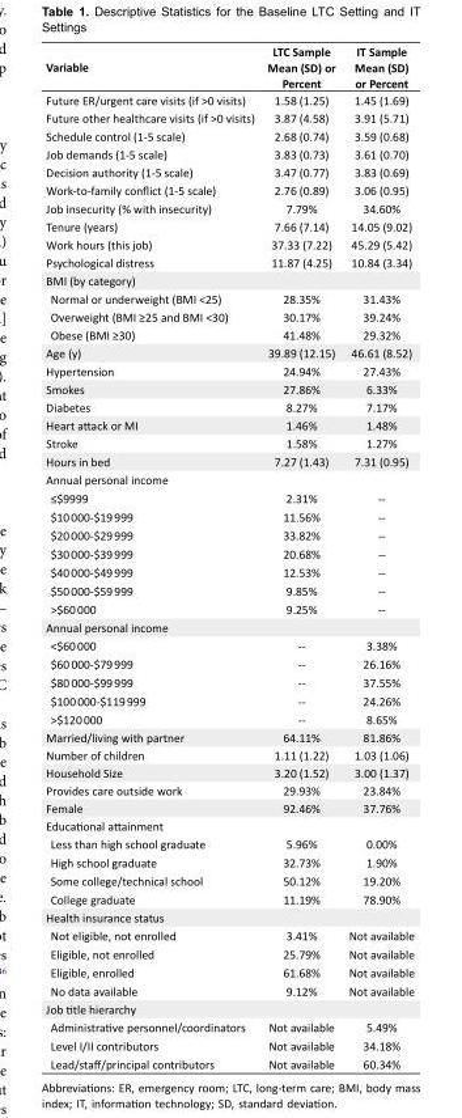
<table><tbody><tr><td rowspan="2">Variable</td><td>LTC Sample</td><td>IT Sample</td></tr><tr><td>Mean (SD) or Percent</td><td>Mean (SD) or Percent</td></tr><tr><td>Future ER/urgent care visits (if &gt;0 visits)</td><td>1.58 (1.25)</td><td>1.45 (1.69)</td></tr><tr><td>Future other healthcare visits (if &gt;0 visits)</td><td>3.87 (4.58)</td><td>3.91 (5.71)</td></tr><tr><td>Schedule control (1-5 scale)</td><td>2.68 (0.74)</td><td>3.59 (0.68)</td></tr><tr><td>Job demands (1-5 scale)</td><td>3.83 (0.73)</td><td>3.61 (0.70)</td></tr><tr><td>Decision authority (1-5 scale)</td><td>3.47 (0.77)</td><td>3.83 (0.69)</td></tr><tr><td>Work-to-family conflict (1-5 scale)</td><td>2.76 (0.89)</td><td>3.06 (0.95)</td></tr><tr><td>Job insecurity (% with insecurity)</td><td>7.79%</td><td>34.60%</td></tr><tr><td>Tenure (years)</td><td>7.66 (7.14)</td><td>14.05 (9.02)</td></tr><tr><td>Work hours (this job)</td><td>37.33 (7.22)</td><td>45.29 (5.42)</td></tr><tr><td>Psychological distress</td><td>11.87 (4.25)</td><td>10.84 (3.34)</td></tr><tr><td colspan="3">BMI (by category)</td></tr><tr><td>Normal or underweight (BMI &lt;25)</td><td>28.35%</td><td>31.43%</td></tr><tr><td>Overweight (BMI ≥25 and BMI &lt;30)</td><td>30.17%</td><td>39.24%</td></tr><tr><td>Obese (BMI ≥30)</td><td>41.48%</td><td>29.32%</td></tr><tr><td>Age (y)</td><td>39.89 (12.15)</td><td>46.61 (8.52)</td></tr><tr><td>Hypertension</td><td>24.94%</td><td>27.43%</td></tr><tr><td>Smokes</td><td>27.86%</td><td>6.33%</td></tr><tr><td>Diabetes</td><td>8.27%</td><td>7.17%</td></tr><tr><td>Heart attack or MI</td><td>1.46%</td><td>1.48%</td></tr><tr><td>Stroke</td><td>1.58%</td><td>1.27%</td></tr><tr><td>Hours in bed</td><td>7.27 (1.43)</td><td>7.31 (0.95)</td></tr><tr><td colspan="3">Annual personal income</td></tr><tr><td>≤$9999</td><td>2.31%</td><td>--</td></tr><tr><td>$10 000-$19 999</td><td>11.56%</td><td>--</td></tr><tr><td>$20 000-$29 999</td><td>33.82%</td><td>--</td></tr><tr><td>$30 000-$39 999</td><td>20.68%</td><td>--</td></tr><tr><td>$40 000-$49 999</td><td>12.53%</td><td>--</td></tr><tr><td>$50 000-$59 999</td><td>9.85%</td><td>--</td></tr><tr><td>&gt;$60 000</td><td>9.25%</td><td>--</td></tr><tr><td colspan="3">Annual personal income</td></tr><tr><td>&lt;$60 000</td><td>--</td><td>3.38%</td></tr><tr><td>$60 000-$79 999</td><td>--</td><td>26.16%</td></tr><tr><td>$80 000-$99 999</td><td>--</td><td>37.55%</td></tr><tr><td>$100 000-$119 999</td><td>--</td><td>24.26%</td></tr><tr><td>&gt;$120 000</td><td>--</td><td>8.65%</td></tr><tr><td>Married/living with partner</td><td>64.11%</td><td>81.86%</td></tr><tr><td>Number of children</td><td>1.11 (1.22)</td><td>1.03 (1.06)</td></tr><tr><td>Household Size</td><td>3.20 (1.52)</td><td>3.00 (1.37)</td></tr><tr><td>Provides care outside work</td><td>29.93%</td><td>23.84%</td></tr><tr><td>Female</td><td>92.46%</td><td>37.76%</td></tr><tr><td colspan="3">Educational attainment</td></tr><tr><td>Less than high school graduate</td><td>5.96%</td><td>0.00%</td></tr><tr><td>High school graduate</td><td>32.73%</td><td>1.90%</td></tr><tr><td>Some college/technical school</td><td>50.12%</td><td>19.20%</td></tr><tr><td>College graduate</td><td>11.19%</td><td>78.90%</td></tr><tr><td colspan="3">Health insurance status</td></tr><tr><td>Not eligible, not enrolled</td><td>3.41%</td><td>Not available</td></tr><tr><td>Eligible, not enrolled</td><td>25.79%</td><td>Not available</td></tr><tr><td>Eligible, enrolled</td><td>61.68%</td><td>Not available</td></tr><tr><td>No data available</td><td>9.12%</td><td>Not available</td></tr><tr><td colspan="3">Job title hierarchy</td></tr><tr><td>Administrative personnel/coordinators</td><td>Not available</td><td>5.49%</td></tr><tr><td>Level I/II contributors</td><td>Not available</td><td>34.18%</td></tr><tr><td>Lead/staff/principal contributors</td><td>Not available</td><td>60.34%</td></tr></tbody></table>